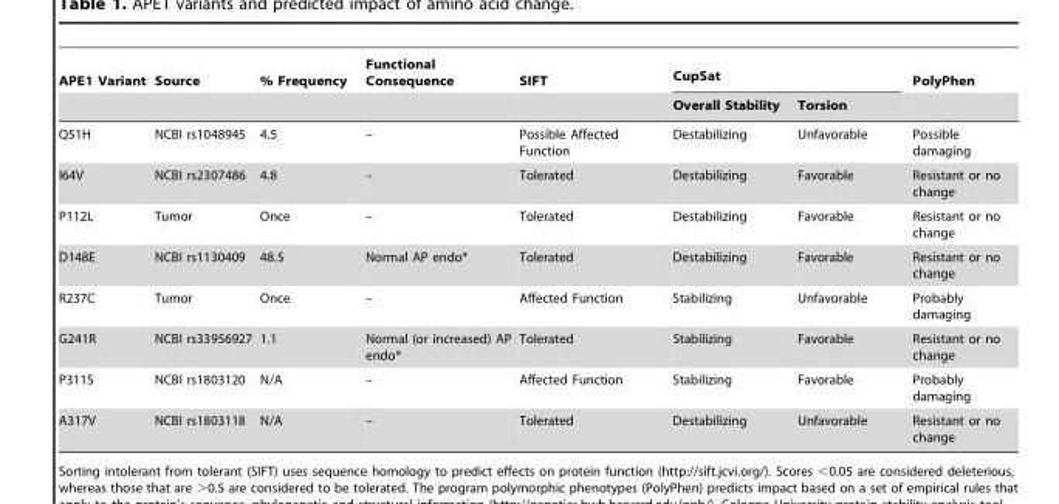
<table><thead><tr><td rowspan="2">APE1 Variant</td><td rowspan="2">Source</td><td rowspan="2">% Frequency</td><td rowspan="2">Functional Consequence</td><td rowspan="2">SIFT</td><td colspan="2">CupSat</td><td rowspan="2">PolyPhen</td></tr><tr><td>Overall Stability</td><td>Torsion</td></tr></thead><tbody><tr><td>Q51H</td><td>NCBI rs1048945</td><td>4.5</td><td>–</td><td>Possible Affected Function</td><td>Destabilizing</td><td>Unfavorable</td><td>Possible damaging</td></tr><tr><td>I64V</td><td>NCBI rs2307486</td><td>4.8</td><td>–</td><td>Tolerated</td><td>Destabilizing</td><td>Favorable</td><td>Resistant or no change</td></tr><tr><td>P112L</td><td>Tumor</td><td>Once</td><td>–</td><td>Tolerated</td><td>Destabilizing</td><td>Favorable</td><td>Resistant or no change</td></tr><tr><td>D148E</td><td>NCBI rs1130409</td><td>48.5</td><td>Normal AP endo*</td><td>Tolerated</td><td>Destabilizing</td><td>Favorable</td><td>Resistant or no change</td></tr><tr><td>R237C</td><td>Tumor</td><td>Once</td><td>–</td><td>Affected Function</td><td>Stabilizing</td><td>Unfavorable</td><td>Probably damaging</td></tr><tr><td>G241R</td><td>NCBI rs33956927</td><td>1.1</td><td>Normal (or increased) AP endo*</td><td>Tolerated</td><td>Stabilizing</td><td>Favorable</td><td>Resistant or no change</td></tr><tr><td>P311S</td><td>NCBI rs1803120</td><td>N/A</td><td>–</td><td>Affected Function</td><td>Stabilizing</td><td>Favorable</td><td>Probably damaging</td></tr><tr><td>A317V</td><td>NCBI rs1803118</td><td>N/A</td><td>–</td><td>Tolerated</td><td>Destabilizing</td><td>Unfavorable</td><td>Resistant or no change</td></tr></tbody></table>